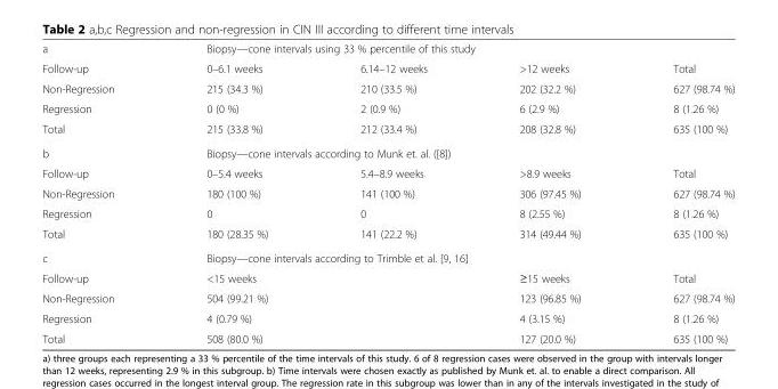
<table><tbody><tr><td>a</td><td colspan="4">Biopsy—cone intervals using 33 % percentile of this study</td></tr><tr><td>Follow-up</td><td>0–6.1 weeks</td><td>6.14–12 weeks</td><td>&gt;12 weeks</td><td>Total</td></tr><tr><td>Non-Regression</td><td>215 (34.3 %)</td><td>210 (33.5 %)</td><td>202 (32.2 %)</td><td>627 (98.74 %)</td></tr><tr><td>Regression</td><td>0 (0 %)</td><td>2 (0.9 %)</td><td>6 (2.9 %)</td><td>8 (1.26 %)</td></tr><tr><td>Total</td><td>215 (33.8 %)</td><td>212 (33.4 %)</td><td>208 (32.8 %)</td><td>635 (100 %)</td></tr><tr><td>b</td><td colspan="4">Biopsy—cone intervals according to Munk et. al. ([8])</td></tr><tr><td>Follow-up</td><td>0–5.4 weeks</td><td>5.4–8.9 weeks</td><td>&gt;8.9 weeks</td><td>Total</td></tr><tr><td>Non-Regression</td><td>180 (100 %)</td><td>141 (100 %)</td><td>306 (97.45 %)</td><td>627 (98.74 %)</td></tr><tr><td>Regression</td><td>0</td><td>0</td><td>8 (2.55 %)</td><td>8 (1.26 %)</td></tr><tr><td>Total</td><td>180 (28.35 %)</td><td>141 (22.2 %)</td><td>314 (49.44 %)</td><td>635 (100 %)</td></tr><tr><td>c</td><td colspan="4">Biopsy—cone intervals according to Trimble et al. [9, 16]</td></tr><tr><td>Follow-up</td><td colspan="2">&lt;15 weeks</td><td>≥15 weeks</td><td>Total</td></tr><tr><td>Non-Regression</td><td colspan="2">504 (99.21 %)</td><td>123 (96.85 %)</td><td>627 (98.74 %)</td></tr><tr><td>Regression</td><td colspan="2">4 (0.79 %)</td><td>4 (3.15 %)</td><td>8 (1.26 %)</td></tr><tr><td>Total</td><td colspan="2">508 (80.0 %)</td><td>127 (20.0 %)</td><td>635 (100 %)</td></tr></tbody></table>